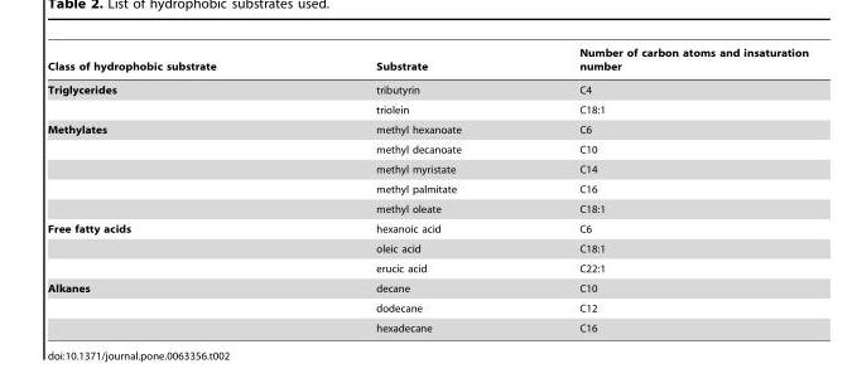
<table><thead><tr><td>Class of hydrophobic substrate</td><td>Substrate</td><td>Number of carbon atoms and insaturation number</td></tr></thead><tbody><tr><td rowspan="2">Triglycerides</td><td>tributyrin</td><td>C4</td></tr><tr><td>triolein</td><td>C18:1</td></tr><tr><td rowspan="5">Methylates</td><td>methyl hexanoate</td><td>C6</td></tr><tr><td>methyl decanoate</td><td>C10</td></tr><tr><td>methyl myristate</td><td>C14</td></tr><tr><td>methyl palmitate</td><td>C16</td></tr><tr><td>methyl oleate</td><td>C18:1</td></tr><tr><td rowspan="3">Free fatty acids</td><td>hexanoic acid</td><td>C6</td></tr><tr><td>oleic acid</td><td>C18:1</td></tr><tr><td>erucic acid</td><td>C22:1</td></tr><tr><td rowspan="3">Alkanes</td><td>decane</td><td>C10</td></tr><tr><td>dodecane</td><td>C12</td></tr><tr><td>hexadecane</td><td>C16</td></tr></tbody></table>